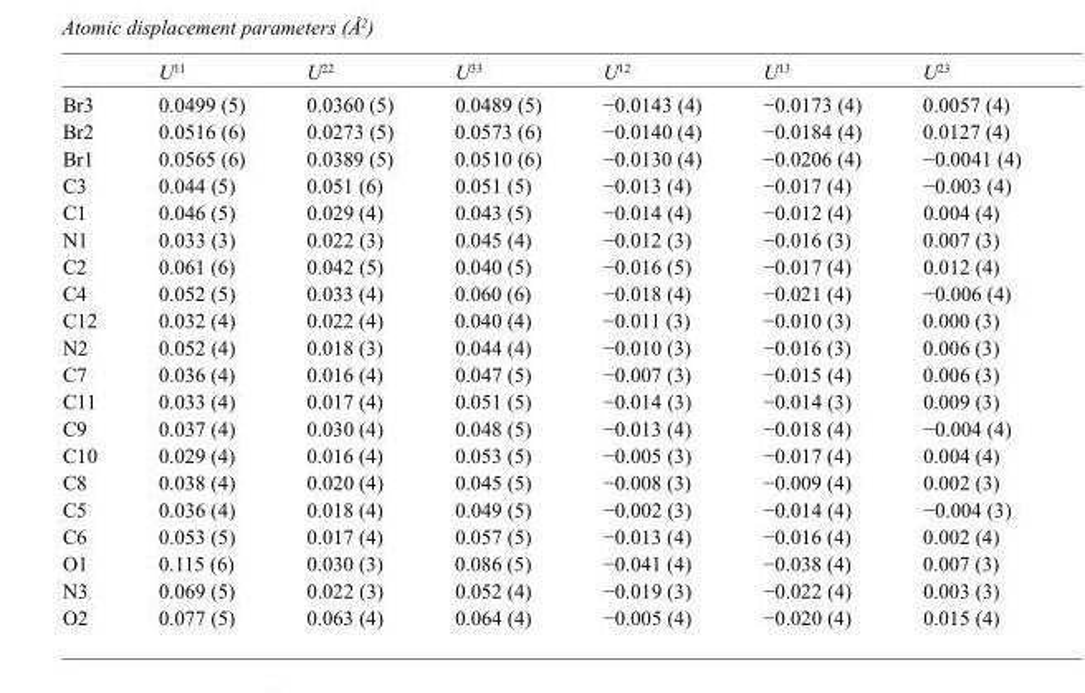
<table><thead><tr><td></td><td>U<sup>11</sup></td><td>U<sup>22</sup></td><td>U<sup>33</sup></td><td>U<sup>12</sup></td><td>U<sup>13</sup></td><td>U<sup>23</sup></td></tr></thead><tbody><tr><td>Br3</td><td>0.0499 (5)</td><td>0.0360 (5)</td><td>0.0489 (5)</td><td>−0.0143 (4)</td><td>−0.0173 (4)</td><td>0.0057 (4)</td></tr><tr><td>Br2</td><td>0.0516 (6)</td><td>0.0273 (5)</td><td>0.0573 (6)</td><td>−0.0140 (4)</td><td>−0.0184 (4)</td><td>0.0127 (4)</td></tr><tr><td>Br1</td><td>0.0565 (6)</td><td>0.0389 (5)</td><td>0.0510 (6)</td><td>−0.0130 (4)</td><td>−0.0206 (4)</td><td>−0.0041 (4)</td></tr><tr><td>C3</td><td>0.044 (5)</td><td>0.051 (6)</td><td>0.051 (5)</td><td>−0.013 (4)</td><td>−0.017 (4)</td><td>−0.003 (4)</td></tr><tr><td>C1</td><td>0.046 (5)</td><td>0.029 (4)</td><td>0.043 (5)</td><td>−0.014 (4)</td><td>−0.012 (4)</td><td>0.004 (4)</td></tr><tr><td>N1</td><td>0.033 (3)</td><td>0.022 (3)</td><td>0.045 (4)</td><td>−0.012 (3)</td><td>−0.016 (3)</td><td>0.007 (3)</td></tr><tr><td>C2</td><td>0.061 (6)</td><td>0.042 (5)</td><td>0.040 (5)</td><td>−0.016 (5)</td><td>−0.017 (4)</td><td>0.012 (4)</td></tr><tr><td>C4</td><td>0.052 (5)</td><td>0.033 (4)</td><td>0.060 (6)</td><td>−0.018 (4)</td><td>−0.021 (4)</td><td>−0.006 (4)</td></tr><tr><td>C12</td><td>0.032 (4)</td><td>0.022 (4)</td><td>0.040 (4)</td><td>−0.011 (3)</td><td>−0.010 (3)</td><td>0.000 (3)</td></tr><tr><td>N2</td><td>0.052 (4)</td><td>0.018 (3)</td><td>0.044 (4)</td><td>−0.010 (3)</td><td>−0.016 (3)</td><td>0.006 (3)</td></tr><tr><td>C7</td><td>0.036 (4)</td><td>0.016 (4)</td><td>0.047 (5)</td><td>−0.007 (3)</td><td>−0.015 (4)</td><td>0.006 (3)</td></tr><tr><td>C11</td><td>0.033 (4)</td><td>0.017 (4)</td><td>0.051 (5)</td><td>−0.014 (3)</td><td>−0.014 (3)</td><td>0.009 (3)</td></tr><tr><td>C9</td><td>0.037 (4)</td><td>0.030 (4)</td><td>0.048 (5)</td><td>−0.013 (4)</td><td>−0.018 (4)</td><td>−0.004 (4)</td></tr><tr><td>C10</td><td>0.029 (4)</td><td>0.016 (4)</td><td>0.053 (5)</td><td>−0.005 (3)</td><td>−0.017 (4)</td><td>0.004 (4)</td></tr><tr><td>C8</td><td>0.038 (4)</td><td>0.020 (4)</td><td>0.045 (5)</td><td>−0.008 (3)</td><td>−0.009 (4)</td><td>0.002 (3)</td></tr><tr><td>C5</td><td>0.036 (4)</td><td>0.018 (4)</td><td>0.049 (5)</td><td>−0.002 (3)</td><td>−0.014 (4)</td><td>−0.004 (3)</td></tr><tr><td>C6</td><td>0.053 (5)</td><td>0.017 (4)</td><td>0.057 (5)</td><td>−0.013 (4)</td><td>−0.016 (4)</td><td>0.002 (4)</td></tr><tr><td>O1</td><td>0.115 (6)</td><td>0.030 (3)</td><td>0.086 (5)</td><td>−0.041 (4)</td><td>−0.038 (4)</td><td>0.007 (3)</td></tr><tr><td>N3</td><td>0.069 (5)</td><td>0.022 (3)</td><td>0.052 (4)</td><td>−0.019 (3)</td><td>−0.022 (4)</td><td>0.003 (3)</td></tr><tr><td>O2</td><td>0.077 (5)</td><td>0.063 (4)</td><td>0.064 (4)</td><td>−0.005 (4)</td><td>−0.020 (4)</td><td>0.015 (4)</td></tr></tbody></table>